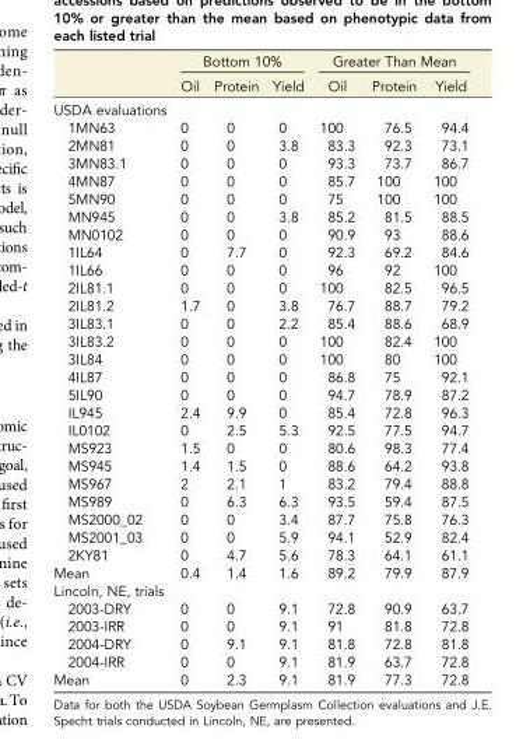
<table><thead><tr><td rowspan="2"></td><td colspan="3">Bottom 10%</td><td colspan="3">Greater Than Mean</td></tr><tr><td>Oil</td><td>Protein</td><td>Yield</td><td>Oil</td><td>Protein</td><td>Yield</td></tr></thead><tbody><tr><td colspan="7">USDA evaluations</td></tr><tr><td>1MN63</td><td>0</td><td>0</td><td>0</td><td>100</td><td>76.5</td><td>94.4</td></tr><tr><td>2MN81</td><td>0</td><td>0</td><td>3.8</td><td>83.3</td><td>92.3</td><td>73.1</td></tr><tr><td>3MN83.1</td><td>0</td><td>0</td><td>0</td><td>93.3</td><td>73.7</td><td>86.7</td></tr><tr><td>4MN87</td><td>0</td><td>0</td><td>0</td><td>85.7</td><td>100</td><td>100</td></tr><tr><td>5MN90</td><td>0</td><td>0</td><td>0</td><td>75</td><td>100</td><td>100</td></tr><tr><td>MN945</td><td>0</td><td>0</td><td>3.8</td><td>85.2</td><td>81.5</td><td>88.5</td></tr><tr><td>MN0102</td><td>0</td><td>0</td><td>0</td><td>90.9</td><td>93</td><td>88.6</td></tr><tr><td>1IL64</td><td>0</td><td>7.7</td><td>0</td><td>92.3</td><td>69.2</td><td>84.6</td></tr><tr><td>1IL66</td><td>0</td><td>0</td><td>0</td><td>96</td><td>92</td><td>100</td></tr><tr><td>2IL81.1</td><td>0</td><td>0</td><td>0</td><td>100</td><td>82.5</td><td>96.5</td></tr><tr><td>2IL81.2</td><td>1.7</td><td>0</td><td>3.8</td><td>76.7</td><td>88.7</td><td>79.2</td></tr><tr><td>3IL83.1</td><td>0</td><td>0</td><td>2.2</td><td>85.4</td><td>88.6</td><td>68.9</td></tr><tr><td>3IL83.2</td><td>0</td><td>0</td><td>0</td><td>100</td><td>82.4</td><td>100</td></tr><tr><td>3IL84</td><td>0</td><td>0</td><td>0</td><td>100</td><td>80</td><td>100</td></tr><tr><td>4IL87</td><td>0</td><td>0</td><td>0</td><td>86.8</td><td>75</td><td>92.1</td></tr><tr><td>5IL90</td><td>0</td><td>0</td><td>0</td><td>94.7</td><td>78.9</td><td>87.2</td></tr><tr><td>IL945</td><td>2.4</td><td>9.9</td><td>0</td><td>85.4</td><td>72.8</td><td>96.3</td></tr><tr><td>IL0102</td><td>0</td><td>2.5</td><td>5.3</td><td>92.5</td><td>77.5</td><td>94.7</td></tr><tr><td>MS923</td><td>1.5</td><td>0</td><td>0</td><td>80.6</td><td>98.3</td><td>77.4</td></tr><tr><td>MS945</td><td>1.4</td><td>1.5</td><td>0</td><td>88.6</td><td>64.2</td><td>93.8</td></tr><tr><td>MS967</td><td>2</td><td>2.1</td><td>1</td><td>83.2</td><td>79.4</td><td>88.8</td></tr><tr><td>MS989</td><td>0</td><td>6.3</td><td>6.3</td><td>93.5</td><td>59.4</td><td>87.5</td></tr><tr><td>MS2000_02</td><td>0</td><td>0</td><td>3.4</td><td>87.7</td><td>75.8</td><td>76.3</td></tr><tr><td>MS2001_03</td><td>0</td><td>0</td><td>5.9</td><td>94.1</td><td>52.9</td><td>82.4</td></tr><tr><td>2KY81</td><td>0</td><td>4.7</td><td>5.6</td><td>78.3</td><td>64.1</td><td>61.1</td></tr><tr><td>Mean</td><td>0.4</td><td>1.4</td><td>1.6</td><td>89.2</td><td>79.9</td><td>87.9</td></tr><tr><td colspan="7">Lincoln, NE, trials</td></tr><tr><td>2003-DRY</td><td>0</td><td>0</td><td>9.1</td><td>72.8</td><td>90.9</td><td>63.7</td></tr><tr><td>2003-IRR</td><td>0</td><td>0</td><td>9.1</td><td>91</td><td>81.8</td><td>72.8</td></tr><tr><td>2004-DRY</td><td>0</td><td>9.1</td><td>9.1</td><td>81.8</td><td>72.8</td><td>81.8</td></tr><tr><td>2004-IRR</td><td>0</td><td>0</td><td>9.1</td><td>81.9</td><td>63.7</td><td>72.8</td></tr><tr><td>Mean</td><td>0</td><td>2.3</td><td>9.1</td><td>81.9</td><td>77.3</td><td>72.8</td></tr></tbody></table>